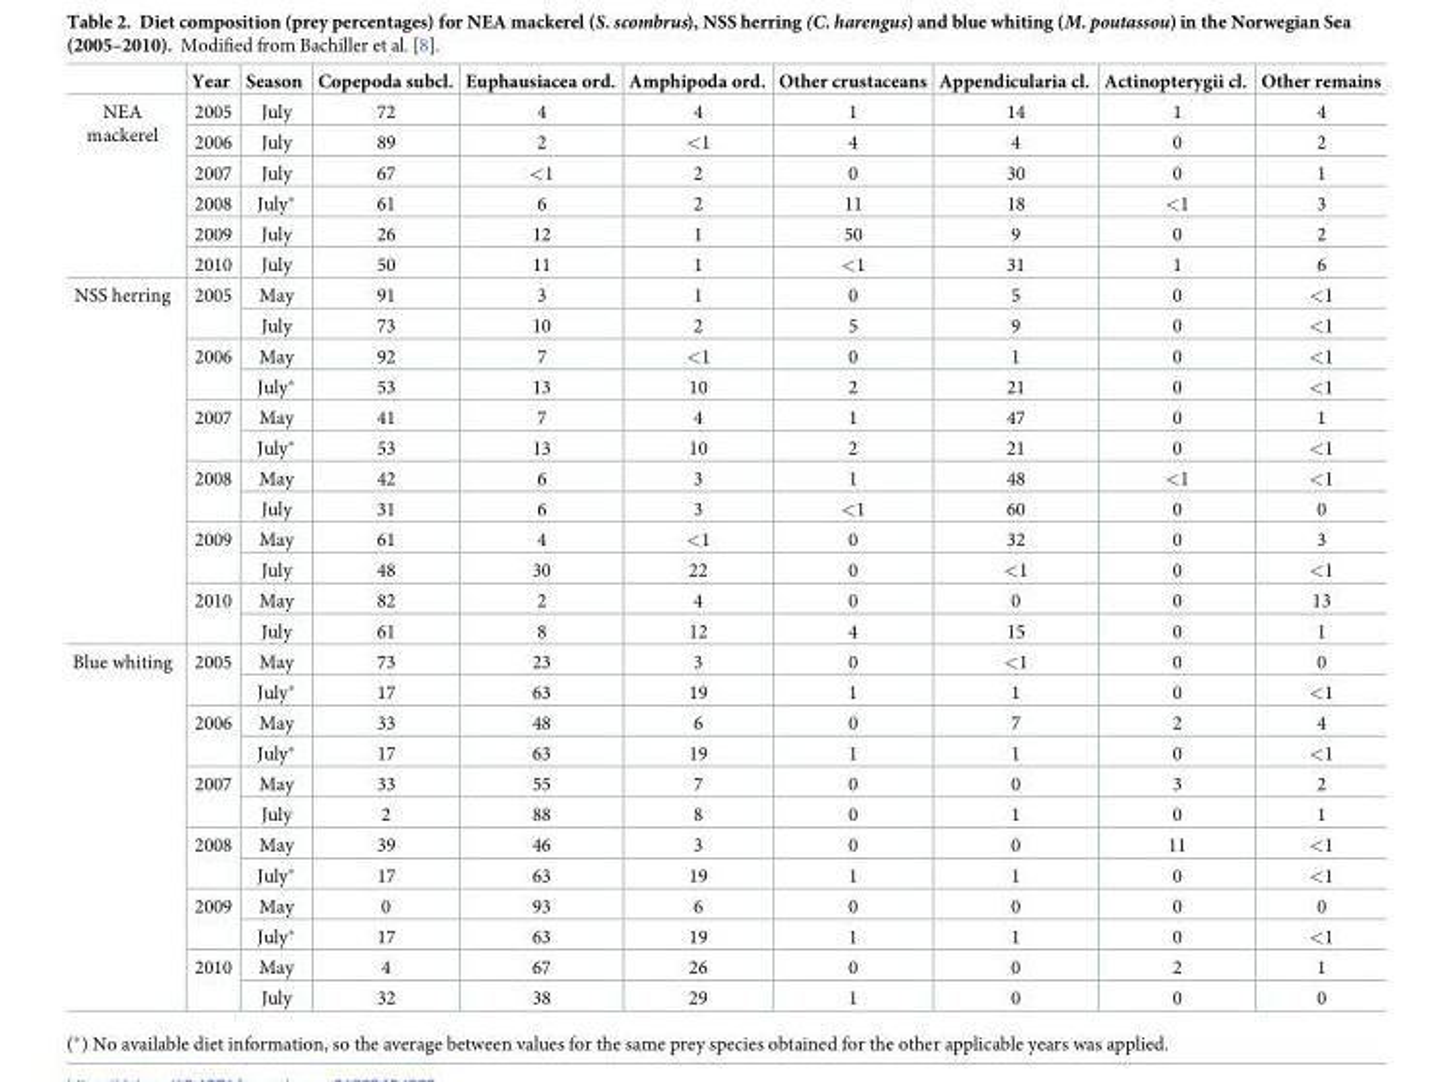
<table><thead><tr><td></td><td>Year</td><td>Season</td><td>Copepoda subcl.</td><td>Euphausiacea ord.</td><td>Amphipoda ord.</td><td>Other crustaceans</td><td>Appendicularia cl.</td><td>Actinopterygii cl.</td><td>Other remains</td></tr></thead><tbody><tr><td rowspan="6">NEA mackerel</td><td>2005</td><td>July</td><td>72</td><td>4</td><td>4</td><td>1</td><td>14</td><td>1</td><td>4</td></tr><tr><td>2006</td><td>July</td><td>89</td><td>2</td><td>&lt;1</td><td>4</td><td>4</td><td>0</td><td>2</td></tr><tr><td>2007</td><td>July</td><td>67</td><td>&lt;1</td><td>2</td><td>0</td><td>30</td><td>0</td><td>1</td></tr><tr><td>2008</td><td>July*</td><td>61</td><td>6</td><td>2</td><td>11</td><td>18</td><td>&lt;1</td><td>3</td></tr><tr><td>2009</td><td>July</td><td>26</td><td>12</td><td>1</td><td>50</td><td>9</td><td>0</td><td>2</td></tr><tr><td>2010</td><td>July</td><td>50</td><td>11</td><td>1</td><td>&lt;1</td><td>31</td><td>1</td><td>6</td></tr><tr><td rowspan="12">NSS herring</td><td rowspan="2">2005</td><td>May</td><td>91</td><td>3</td><td>1</td><td>0</td><td>5</td><td>0</td><td>&lt;1</td></tr><tr><td>July</td><td>73</td><td>10</td><td>2</td><td>5</td><td>9</td><td>0</td><td>&lt;1</td></tr><tr><td rowspan="2">2006</td><td>May</td><td>92</td><td>7</td><td>&lt;1</td><td>0</td><td>1</td><td>0</td><td>&lt;1</td></tr><tr><td>July*</td><td>53</td><td>13</td><td>10</td><td>2</td><td>21</td><td>0</td><td>&lt;1</td></tr><tr><td rowspan="2">2007</td><td>May</td><td>41</td><td>7</td><td>4</td><td>1</td><td>47</td><td>0</td><td>1</td></tr><tr><td>July*</td><td>53</td><td>13</td><td>10</td><td>2</td><td>21</td><td>0</td><td>&lt;1</td></tr><tr><td rowspan="2">2008</td><td>May</td><td>42</td><td>6</td><td>3</td><td>1</td><td>48</td><td>&lt;1</td><td>&lt;1</td></tr><tr><td>July</td><td>31</td><td>6</td><td>3</td><td>&lt;1</td><td>60</td><td>0</td><td>0</td></tr><tr><td rowspan="2">2009</td><td>May</td><td>61</td><td>4</td><td>&lt;1</td><td>0</td><td>32</td><td>0</td><td>3</td></tr><tr><td>July</td><td>48</td><td>30</td><td>22</td><td>0</td><td>&lt;1</td><td>0</td><td>&lt;1</td></tr><tr><td rowspan="2">2010</td><td>May</td><td>82</td><td>2</td><td>4</td><td>0</td><td>0</td><td>0</td><td>13</td></tr><tr><td>July</td><td>61</td><td>8</td><td>12</td><td>4</td><td>15</td><td>0</td><td>1</td></tr><tr><td rowspan="12">Blue whiting</td><td rowspan="2">2005</td><td>May</td><td>73</td><td>23</td><td>3</td><td>0</td><td>&lt;1</td><td>0</td><td>0</td></tr><tr><td>July*</td><td>17</td><td>63</td><td>19</td><td>1</td><td>1</td><td>0</td><td>&lt;1</td></tr><tr><td rowspan="2">2006</td><td>May</td><td>33</td><td>48</td><td>6</td><td>0</td><td>7</td><td>2</td><td>4</td></tr><tr><td>July*</td><td>17</td><td>63</td><td>19</td><td>1</td><td>1</td><td>0</td><td>&lt;1</td></tr><tr><td rowspan="2">2007</td><td>May</td><td>33</td><td>55</td><td>7</td><td>0</td><td>0</td><td>3</td><td>2</td></tr><tr><td>July</td><td>2</td><td>88</td><td>8</td><td>0</td><td>1</td><td>0</td><td>1</td></tr><tr><td rowspan="2">2008</td><td>May</td><td>39</td><td>46</td><td>3</td><td>0</td><td>0</td><td>11</td><td>&lt;1</td></tr><tr><td>July*</td><td>17</td><td>63</td><td>19</td><td>1</td><td>1</td><td>0</td><td>&lt;1</td></tr><tr><td rowspan="2">2009</td><td>May</td><td>0</td><td>93</td><td>6</td><td>0</td><td>0</td><td>0</td><td>0</td></tr><tr><td>July*</td><td>17</td><td>63</td><td>19</td><td>1</td><td>1</td><td>0</td><td>&lt;1</td></tr><tr><td rowspan="2">2010</td><td>May</td><td>4</td><td>67</td><td>26</td><td>0</td><td>0</td><td>2</td><td>1</td></tr><tr><td>July</td><td>32</td><td>38</td><td>29</td><td>1</td><td>0</td><td>0</td><td>0</td></tr></tbody></table>